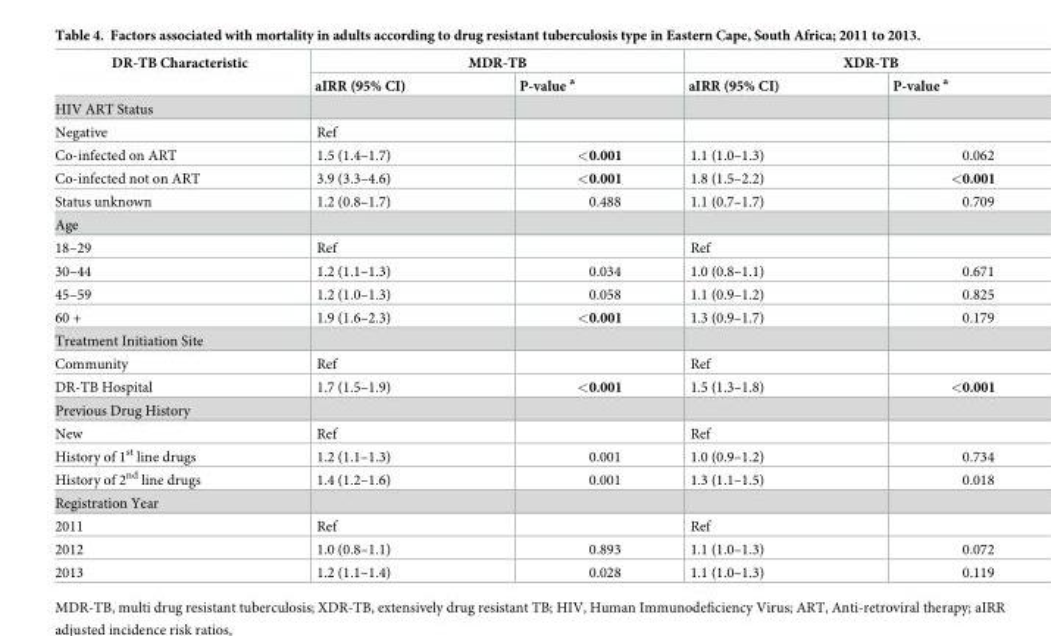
<table><thead><tr><td rowspan="2">DR-TB Characteristic</td><td colspan="2">MDR-TB</td><td colspan="2">XDR-TB</td></tr><tr><td>aIRR (95% CI)</td><td>P-value <sup>a</sup></td><td>aIRR (95% CI)</td><td>P-value <sup>a</sup></td></tr></thead><tbody><tr><td colspan="5">HIV ART Status</td></tr><tr><td>Negative</td><td>Ref</td><td></td><td></td><td></td></tr><tr><td>Co-infected on ART</td><td>1.5 (1.4–1.7)</td><td>&lt;0.001</td><td>1.1 (1.0–1.3)</td><td>0.062</td></tr><tr><td>Co-infected not on ART</td><td>3.9 (3.3–4.6)</td><td>&lt;0.001</td><td>1.8 (1.5–2.2)</td><td>&lt;0.001</td></tr><tr><td>Status unknown</td><td>1.2 (0.8–1.7)</td><td>0.488</td><td>1.1 (0.7–1.7)</td><td>0.709</td></tr><tr><td colspan="5">Age</td></tr><tr><td>18–29</td><td>Ref</td><td></td><td>Ref</td><td></td></tr><tr><td>30–44</td><td>1.2 (1.1–1.3)</td><td>0.034</td><td>1.0 (0.8–1.1)</td><td>0.671</td></tr><tr><td>45–59</td><td>1.2 (1.0–1.3)</td><td>0.058</td><td>1.1 (0.9–1.2)</td><td>0.825</td></tr><tr><td>60 +</td><td>1.9 (1.6–2.3)</td><td>&lt;0.001</td><td>1.3 (0.9–1.7)</td><td>0.179</td></tr><tr><td colspan="5">Treatment Initiation Site</td></tr><tr><td>Community</td><td>Ref</td><td></td><td>Ref</td><td></td></tr><tr><td>DR-TB Hospital</td><td>1.7 (1.5–1.9)</td><td>&lt;0.001</td><td>1.5 (1.3–1.8)</td><td>&lt;0.001</td></tr><tr><td colspan="5">Previous Drug History</td></tr><tr><td>New</td><td>Ref</td><td></td><td>Ref</td><td></td></tr><tr><td>History of 1<sup>st</sup> line drugs</td><td>1.2 (1.1–1.3)</td><td>0.001</td><td>1.0 (0.9–1.2)</td><td>0.734</td></tr><tr><td>History of 2<sup>nd</sup> line drugs</td><td>1.4 (1.2–1.6)</td><td>0.001</td><td>1.3 (1.1–1.5)</td><td>0.018</td></tr><tr><td colspan="5">Registration Year</td></tr><tr><td>2011</td><td>Ref</td><td></td><td>Ref</td><td></td></tr><tr><td>2012</td><td>1.0 (0.8–1.1)</td><td>0.893</td><td>1.1 (1.0–1.3)</td><td>0.072</td></tr><tr><td>2013</td><td>1.2 (1.1–1.4)</td><td>0.028</td><td>1.1 (1.0–1.3)</td><td>0.119</td></tr></tbody></table>